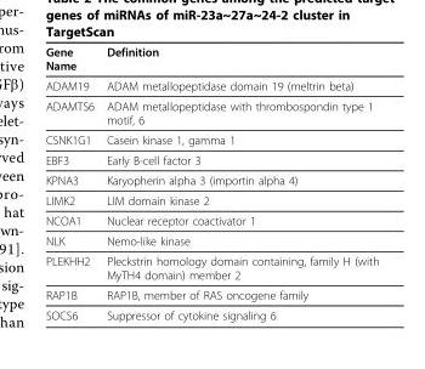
<table><thead><tr><td>Gene Name</td><td>Definition</td></tr></thead><tbody><tr><td>ADAM19</td><td>ADAM metallopeptidase domain 19 (meltrin beta)</td></tr><tr><td>ADAMTS6</td><td>ADAM metallopeptidase with thrombospondin type 1 motif, 6</td></tr><tr><td>CSNK1G1</td><td>Casein kinase 1, gamma 1</td></tr><tr><td>EBF3</td><td>Early B-cell factor 3</td></tr><tr><td>KPNA3</td><td>Karyopherin alpha 3 (importin alpha 4)</td></tr><tr><td>LIMK2</td><td>LIM domain kinase 2</td></tr><tr><td>NCOA1</td><td>Nuclear receptor coactivator 1</td></tr><tr><td>NLK</td><td>Nemo-like kinase</td></tr><tr><td>PLEKHH2</td><td>Pleckstrin homology domain containing, family H (with MyTH4 domain) member 2</td></tr><tr><td>RAP1B</td><td>RAP1B, member of RAS oncogene family</td></tr><tr><td>SOCS6</td><td>Suppressor of cytokine signaling 6</td></tr></tbody></table>